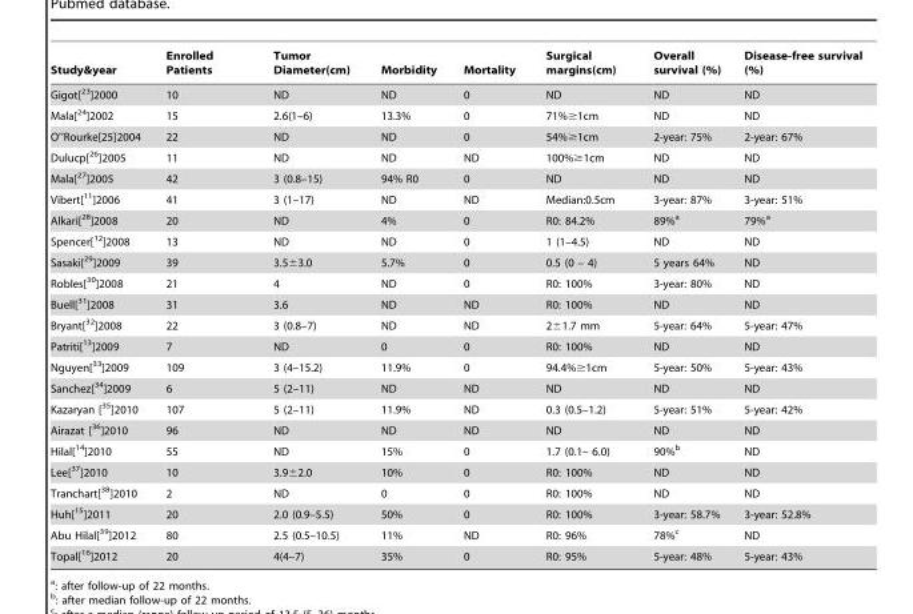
<table><thead><tr><td>Study&amp;year</td><td>Enrolled Patients</td><td>Tumor Diameter(cm)</td><td>Morbidity</td><td>Mortality</td><td>Surgical margins(cm)</td><td>Overall survival (%)</td><td>Disease-free survival (%)</td></tr></thead><tbody><tr><td>Gigot[<sup>23</sup>]2000</td><td>10</td><td>ND</td><td>ND</td><td>0</td><td>ND</td><td>ND</td><td>ND</td></tr><tr><td>Mala[<sup>24</sup>]2002</td><td>15</td><td>2.6(1–6)</td><td>13.3%</td><td>0</td><td>71%≥1cm</td><td>ND</td><td>ND</td></tr><tr><td>O’’Rourke[25]2004</td><td>22</td><td>ND</td><td>ND</td><td>0</td><td>54%≥1cm</td><td>2-year: 75%</td><td>2-year: 67%</td></tr><tr><td>Dulucp[<sup>26</sup>]2005</td><td>11</td><td>ND</td><td>ND</td><td>ND</td><td>100%≥1cm</td><td>ND</td><td>ND</td></tr><tr><td>Mala[<sup>27</sup>]2005</td><td>42</td><td>3 (0.8–15)</td><td>94% R0</td><td>0</td><td>ND</td><td>ND</td><td>ND</td></tr><tr><td>Vibert[<sup>11</sup>]2006</td><td>41</td><td>3 (1–17)</td><td>ND</td><td>ND</td><td>Median:0.5cm</td><td>3-year: 87%</td><td>3-year: 51%</td></tr><tr><td>Alkari[<sup>28</sup>]2008</td><td>20</td><td>ND</td><td>4%</td><td>0</td><td>R0: 84.2%</td><td>89%<sup>a</sup></td><td>79%<sup>a</sup></td></tr><tr><td>Spencer[<sup>12</sup>]2008</td><td>13</td><td>ND</td><td>ND</td><td>0</td><td>1 (1–4.5)</td><td>ND</td><td>ND</td></tr><tr><td>Sasaki[<sup>29</sup>]2009</td><td>39</td><td>3.5±3.0</td><td>5.7%</td><td>0</td><td>0.5 (0 – 4)</td><td>5 years 64%</td><td>ND</td></tr><tr><td>Robles[<sup>30</sup>]2008</td><td>21</td><td>4</td><td>ND</td><td>0</td><td>R0: 100%</td><td>3-year: 80%</td><td>ND</td></tr><tr><td>Buell[<sup>31</sup>]2008</td><td>31</td><td>3.6</td><td>ND</td><td>ND</td><td>R0: 100%</td><td>ND</td><td>ND</td></tr><tr><td>Bryant[<sup>32</sup>]2008</td><td>22</td><td>3 (0.8–7)</td><td>ND</td><td>ND</td><td>2±1.7 mm</td><td>5-year: 64%</td><td>5-year: 47%</td></tr><tr><td>Patriti[<sup>13</sup>]2009</td><td>7</td><td>ND</td><td>0</td><td>0</td><td>R0: 100%</td><td>ND</td><td>ND</td></tr><tr><td>Nguyen[<sup>33</sup>]2009</td><td>109</td><td>3 (4–15.2)</td><td>11.9%</td><td>0</td><td>94.4%≥1cm</td><td>5-year: 50%</td><td>5-year: 43%</td></tr><tr><td>Sanchez[<sup>34</sup>]2009</td><td>6</td><td>5 (2–11)</td><td>ND</td><td>ND</td><td>ND</td><td>ND</td><td>ND</td></tr><tr><td>Kazaryan [35]2010</td><td>107</td><td>5 (2–11)</td><td>11.9%</td><td>ND</td><td>0.3 (0.5–1.2)</td><td>5-year: 51%</td><td>5-year: 42%</td></tr><tr><td>Airazat [36]2010</td><td>96</td><td>ND</td><td>ND</td><td>ND</td><td>ND</td><td>ND</td><td>ND</td></tr><tr><td>Hilal[<sup>14</sup>]2010</td><td>55</td><td>ND</td><td>15%</td><td>0</td><td>1.7 (0.1– 6.0)</td><td>90%<sup>b</sup></td><td>ND</td></tr><tr><td>Lee[<sup>37</sup>]2010</td><td>10</td><td>3.9±2.0</td><td>10%</td><td>0</td><td>R0: 100%</td><td>ND</td><td>ND</td></tr><tr><td>Tranchart[<sup>38</sup>]2010</td><td>2</td><td>ND</td><td>0</td><td>0</td><td>R0: 100%</td><td>ND</td><td>ND</td></tr><tr><td>Huh[<sup>15</sup>]2011</td><td>20</td><td>2.0 (0.9–5.5)</td><td>50%</td><td>0</td><td>R0: 100%</td><td>3-year: 58.7%</td><td>3-year: 52.8%</td></tr><tr><td>Abu Hilal[<sup>39</sup>]2012</td><td>80</td><td>2.5 (0.5–10.5)</td><td>11%</td><td>ND</td><td>R0: 96%</td><td>78%<sup>c</sup></td><td>ND</td></tr><tr><td>Topal[<sup>16</sup>]2012</td><td>20</td><td>4(4–7)</td><td>35%</td><td>0</td><td>R0: 95%</td><td>5-year: 48%</td><td>5-year: 43%</td></tr></tbody></table>